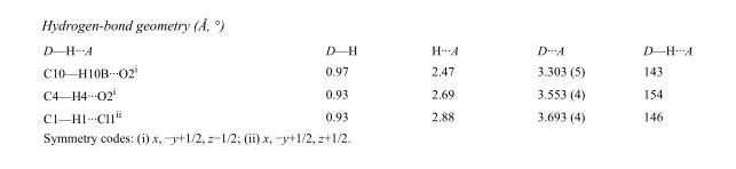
<table><tbody><tr><td>D—H···A</td><td>D—H</td><td>H···A</td><td>D···A</td><td>D—H···A</td></tr><tr><td>C10—H10B···O2<sup>i</sup></td><td>0.97</td><td>2.47</td><td>3.303 (5)</td><td>143</td></tr><tr><td>C4—H4···O2<sup>i</sup></td><td>0.93</td><td>2.69</td><td>3.553 (4)</td><td>154</td></tr><tr><td>C1—H1···Cl1<sup>ii</sup></td><td>0.93</td><td>2.88</td><td>3.693 (4)</td><td>146</td></tr></tbody></table>